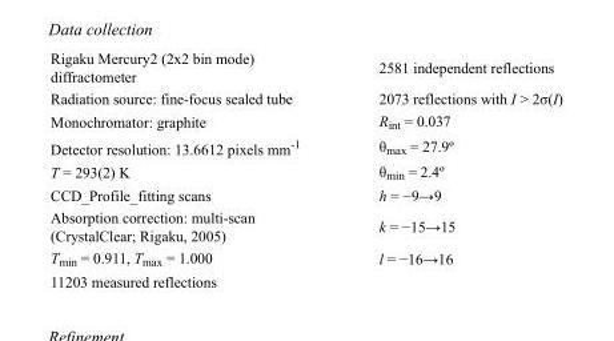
<table><tbody><tr><td>Rigaku Mercury2 (2x2 bin mode) diffractometer</td><td>2581 independent reflections</td></tr><tr><td>Radiation source: fine-focus sealed tube</td><td>2073 reflections with I &gt; 2σ(I)</td></tr><tr><td>Monochromator: graphite</td><td>R<sub>int</sub> = 0.037</td></tr><tr><td>Detector resolution: 13.6612 pixels mm<sup>-1</sup></td><td>θ<sub>max</sub> = 27.9º</td></tr><tr><td>T = 293(2) K</td><td>θ<sub>min</sub> = 2.4º</td></tr><tr><td>CCD_Profile_fitting scans</td><td>h = −9→9</td></tr><tr><td>Absorption correction: multi-scan (CrystalClear; Rigaku, 2005)</td><td>k = −15→15</td></tr><tr><td>T<sub>min</sub> = 0.911, T<sub>max</sub> = 1.000</td><td>l = −16→16</td></tr><tr><td>11203 measured reflections</td><td></td></tr></tbody></table>